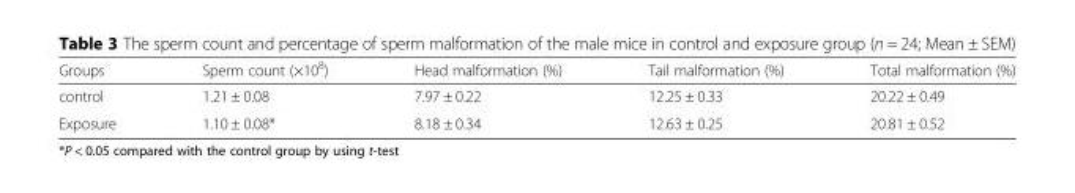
<table><thead><tr><td>Groups</td><td>Sperm count (×10<sup>8</sup>)</td><td>Head malformation (%)</td><td>Tail malformation (%)</td><td>Total malformation (%)</td></tr></thead><tbody><tr><td>control</td><td>1.21 ± 0.08</td><td>7.97 ± 0.22</td><td>12.25 ± 0.33</td><td>20.22 ± 0.49</td></tr><tr><td>Exposure</td><td>1.10 ± 0.08*</td><td>8.18 ± 0.34</td><td>12.63 ± 0.25</td><td>20.81 ± 0.52</td></tr></tbody></table>